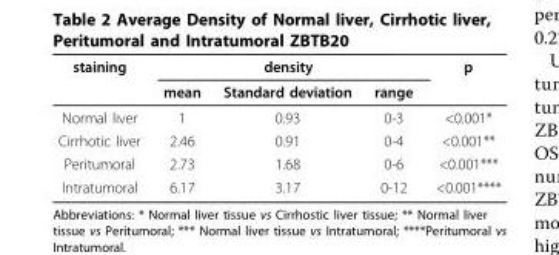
<table><thead><tr><td rowspan="2">staining</td><td colspan="3">density</td><td rowspan="2">p</td></tr><tr><td>mean</td><td>Standard deviation</td><td>range</td></tr></thead><tbody><tr><td>Normal liver</td><td>1</td><td>0.93</td><td>0-3</td><td>&lt;0.001*</td></tr><tr><td>Cirrhotic liver</td><td>2.46</td><td>0.91</td><td>0-4</td><td>&lt;0.001**</td></tr><tr><td>Peritumoral</td><td>2.73</td><td>1.68</td><td>0-6</td><td>&lt;0.001***</td></tr><tr><td>Intratumoral</td><td>6.17</td><td>3.17</td><td>0-12</td><td>&lt;0.001****</td></tr></tbody></table>